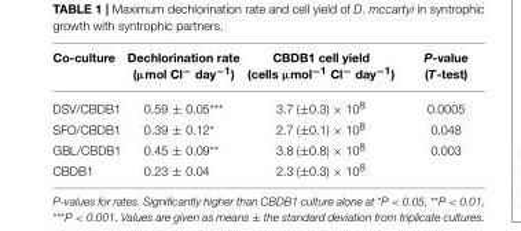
<table><thead><tr><td>Co-culture</td><td>Dechlorination rate (µmol Cl<sup>−</sup> day<sup>−1</sup>)</td><td>CBDB1 cell yield (cells µmol<sup>−1</sup> Cl<sup>−</sup> day<sup>−1</sup>)</td><td>P-value (T-test)</td></tr></thead><tbody><tr><td>DSV/CBDB1</td><td>0.59 ± 0.05***</td><td>3.7 (±0.3) × 10<sup>8</sup></td><td>0.0005</td></tr><tr><td>SFO/CBDB1</td><td>0.39 ± 0.12*</td><td>2.7 (±0.1) × 10<sup>8</sup></td><td>0.048</td></tr><tr><td>GBL/CBDB1</td><td>0.45 ± 0.09**</td><td>3.8 (±0.8) × 10<sup>8</sup></td><td>0.003</td></tr><tr><td>CBDB1</td><td>0.23 ± 0.04</td><td>2.3 (±0.3) × 10<sup>8</sup></td><td></td></tr></tbody></table>